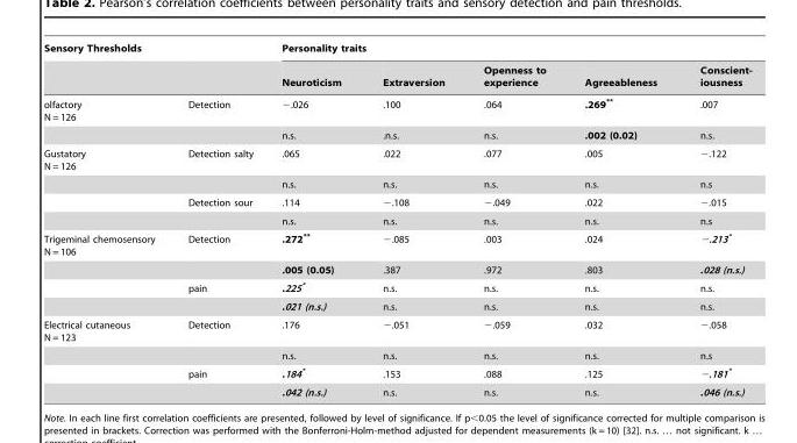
<table><thead><tr><td colspan="2">Sensory Thresholds</td><td colspan="5">Personality traits</td></tr><tr><td></td><td></td><td>Neuroticism</td><td>Extraversion</td><td>Openness to experience</td><td>Agreeableness</td><td>Conscient- iousness</td></tr></thead><tbody><tr><td rowspan="2">olfactory N = 126</td><td>Detection</td><td>−.026</td><td>.100</td><td>.064</td><td>.269**</td><td>.007</td></tr><tr><td></td><td>n.s.</td><td>.n.s.</td><td>n.s.</td><td>.002 (0.02)</td><td>n.s.</td></tr><tr><td rowspan="4">Gustatory N = 126</td><td>Detection salty</td><td>.065</td><td>.022</td><td>.077</td><td>.005</td><td>−.122</td></tr><tr><td></td><td>n.s.</td><td>n.s.</td><td>n.s.</td><td>n.s.</td><td>n.s</td></tr><tr><td>Detection sour</td><td>.114</td><td>−.108</td><td>−.049</td><td>.022</td><td>−.015</td></tr><tr><td></td><td>n.s.</td><td>n.s.</td><td>n.s.</td><td>n.s.</td><td>n.s</td></tr><tr><td rowspan="4">Trigeminal chemosensory N = 106</td><td>Detection</td><td>.272**</td><td>−.085</td><td>.003</td><td>.024</td><td>−.213*</td></tr><tr><td></td><td>.005 (0.05)</td><td>.387</td><td>.972</td><td>.803</td><td>.028 (n.s.)</td></tr><tr><td>pain</td><td>.225*</td><td>n.s.</td><td>n.s.</td><td>n.s.</td><td>n.s.</td></tr><tr><td></td><td>.021 (n.s.)</td><td>n.s.</td><td>n.s.</td><td>n.s.</td><td>n.s.</td></tr><tr><td rowspan="4">Electrical cutaneous N = 123</td><td>Detection</td><td>.176</td><td>−.051</td><td>−.059</td><td>.032</td><td>−.058</td></tr><tr><td></td><td>n.s.</td><td>n.s.</td><td>n.s.</td><td>n.s.</td><td>n.s</td></tr><tr><td>pain</td><td>.184*</td><td>.153</td><td>.088</td><td>.125</td><td>−.181*</td></tr><tr><td></td><td>.042 (n.s.)</td><td>n.s.</td><td>n.s.</td><td>n.s.</td><td>.046 (n.s.)</td></tr></tbody></table>